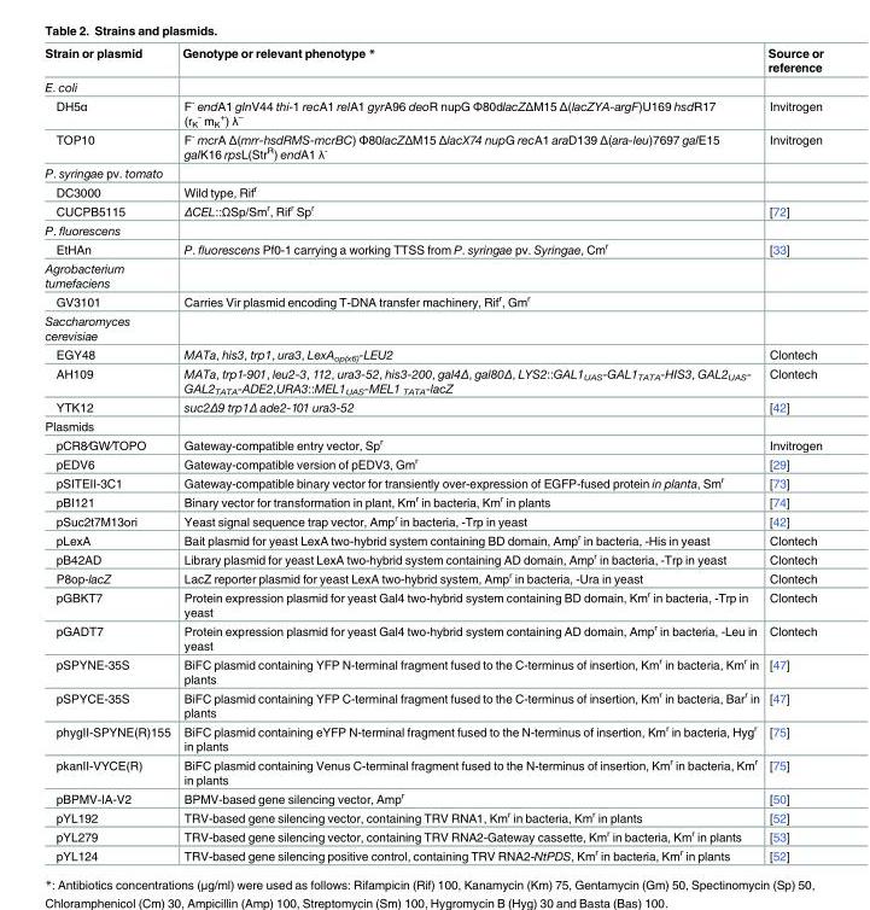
<table><thead><tr><td>Strain or plasmid</td><td>Genotype or relevant phenotype *</td><td>Source or reference</td></tr></thead><tbody><tr><td colspan="3">E. coli</td></tr><tr><td>DH5α</td><td>F<sup>-</sup> endA1 glnV44 thi-1 recA1 relA1 gyrA96 deoR nupG Φ80dlacZΔM15 Δ(lacZYA-argF)U169 hsdR17 (r<sub>K</sub> <sup>-</sup> m<sub>K</sub> <sup>+</sup>) λ<sup>–</sup></td><td>Invitrogen</td></tr><tr><td>TOP10</td><td>F<sup>-</sup> mcrA Δ(mrr-hsdRMS-mcrBC) Φ80lacZΔM15 ΔlacX74 nupG recA1 araD139 Δ(ara-leu)7697 galE15 galK16 rpsL(Str<sup>R</sup>) endA1 λ<sup>-</sup></td><td>Invitrogen</td></tr><tr><td colspan="3">P. syringae pv. tomato</td></tr><tr><td>DC3000</td><td>Wild type, Rif<sup>r</sup></td><td></td></tr><tr><td>CUCPB5115</td><td>ΔCEL::ΩSp/Smr, Rifr Spr</td><td>[72]</td></tr><tr><td colspan="3">P. fluorescens</td></tr><tr><td>EtHAn</td><td>P. fluorescens Pf0-1 carrying a working TTSS from P. syringae pv. Syringae, Cm<sup>r</sup></td><td>[33]</td></tr><tr><td colspan="3">Agrobacterium tumefaciens</td></tr><tr><td>GV3101</td><td>Carries Vir plasmid encoding T-DNA transfer machinery, Rif<sup>r</sup>, Gm<sup>r</sup></td><td></td></tr><tr><td colspan="3">Saccharomyces cerevisiae</td></tr><tr><td>EGY48</td><td>MATa, his3, trp1, ura3, LexA<sub>op(x6)</sub>-LEU2</td><td>Clontech</td></tr><tr><td>AH109</td><td>MATa, trp1-901, leu2-3, 112, ura3-52, his3-200, gal4Δ, gal80Δ, LYS2::GAL1UAS-GAL1TATA-HIS3, GAL2UAS- GAL2TATA-ADE2,URA3::MEL1UAS-MEL1 TATA-lacZ</td><td>Clontech</td></tr><tr><td>YTK12</td><td>suc2Δ9 trp1Δ ade2-101 ura3-52</td><td>[42]</td></tr><tr><td colspan="3">Plasmids</td></tr><tr><td>pCR8⁄GW⁄TOPO</td><td>Gateway-compatible entry vector, Sp<sup>r</sup></td><td>Invitrogen</td></tr><tr><td>pEDV6</td><td>Gateway-compatible version of pEDV3, Gm<sup>r</sup></td><td>[29]</td></tr><tr><td>pSITEII-3C1</td><td>Gateway-compatible binary vector for transiently over-expression of EGFP-fused protein in planta, Sm<sup>r</sup></td><td>[73]</td></tr><tr><td>pBI121</td><td>Binary vector for transformation in plant, Km<sup>r</sup> in bacteria, Km<sup>r</sup> in plants</td><td>[74]</td></tr><tr><td>pSuc2t7M13ori</td><td>Yeast signal sequence trap vector, Amp<sup>r</sup> in bacteria, -Trp in yeast</td><td>[42]</td></tr><tr><td>pLexA</td><td>Bait plasmid for yeast LexA two-hybrid system containing BD domain, Amp<sup>r</sup> in bacteria, -His in yeast</td><td>Clontech</td></tr><tr><td>pB42AD</td><td>Library plasmid for yeast LexA two-hybrid system containing AD domain, Amp<sup>r</sup> in bacteria, -Trp in yeast</td><td>Clontech</td></tr><tr><td>P8op-lacZ</td><td>LacZ reporter plasmid for yeast LexA two-hybrid system, Amp<sup>r</sup> in bacteria, -Ura in yeast</td><td>Clontech</td></tr><tr><td>pGBKT7</td><td>Protein expression plasmid for yeast Gal4 two-hybrid system containing BD domain, Km<sup>r</sup> in bacteria, -Trp in yeast</td><td>Clontech</td></tr><tr><td>pGADT7</td><td>Protein expression plasmid for yeast Gal4 two-hybrid system containing AD domain, Amp<sup>r</sup> in bacteria, -Leu in yeast</td><td>Clontech</td></tr><tr><td>pSPYNE-35S</td><td>BiFC plasmid containing YFP N-terminal fragment fused to the C-terminus of insertion, Km<sup>r</sup> in bacteria, Km<sup>r</sup> in plants</td><td>[47]</td></tr><tr><td>pSPYCE-35S</td><td>BiFC plasmid containing YFP C-terminal fragment fused to the C-terminus of insertion, Km<sup>r</sup> in bacteria, Bar<sup>r</sup> in plants</td><td>[47]</td></tr><tr><td>phygII-SPYNE(R)155</td><td>BiFC plasmid containing eYFP N-terminal fragment fused to the N-terminus of insertion, Km<sup>r</sup> in bacteria, Hyg<sup>r</sup> in plants</td><td>[75]</td></tr><tr><td>pkanII-VYCE(R)</td><td>BiFC plasmid containing Venus C-terminal fragment fused to the N-terminus of insertion, Km<sup>r</sup> in bacteria, Km<sup>r</sup> in plants</td><td>[75]</td></tr><tr><td>pBPMV-IA-V2</td><td>BPMV-based gene silencing vector, Amp<sup>r</sup></td><td>[50]</td></tr><tr><td>pYL192</td><td>TRV-based gene silencing vector, containing TRV RNA1, Km<sup>r</sup> in bacteria, Km<sup>r</sup> in plants</td><td>[52]</td></tr><tr><td>pYL279</td><td>TRV-based gene silencing vector, containing TRV RNA2-Gateway cassette, Km<sup>r</sup> in bacteria, Km<sup>r</sup> in plants</td><td>[53]</td></tr><tr><td>pYL124</td><td>TRV-based gene silencing positive control, containing TRV RNA2-NtPDS, Km<sup>r</sup> in bacteria, Km<sup>r</sup> in plants</td><td>[52]</td></tr></tbody></table>